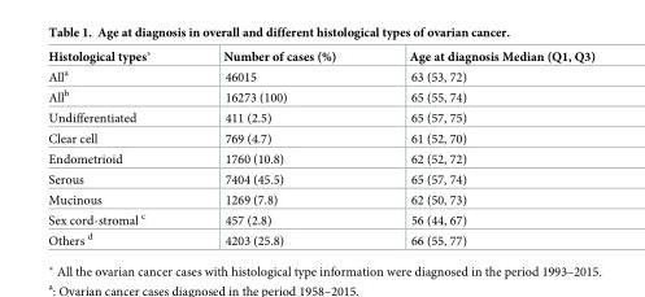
<table><thead><tr><td>Histological types*</td><td>Number of cases (%)</td><td>Age at diagnosis Median (Q1, Q3)</td></tr></thead><tbody><tr><td>All<sup>a</sup></td><td>46015</td><td>63 (53, 72)</td></tr><tr><td>All<sup>b</sup></td><td>16273 (100)</td><td>65 (55, 74)</td></tr><tr><td>Undifferentiated</td><td>411 (2.5)</td><td>65 (57, 75)</td></tr><tr><td>Clear cell</td><td>769 (4.7)</td><td>61 (52, 70)</td></tr><tr><td>Endometrioid</td><td>1760 (10.8)</td><td>62 (52, 72)</td></tr><tr><td>Serous</td><td>7404 (45.5)</td><td>65 (57, 74)</td></tr><tr><td>Mucinous</td><td>1269 (7.8)</td><td>62 (50, 73)</td></tr><tr><td>Sex cord-stromal <sup>c</sup></td><td>457 (2.8)</td><td>56 (44, 67)</td></tr><tr><td>Others <sup>d</sup></td><td>4203 (25.8)</td><td>66 (55, 77)</td></tr></tbody></table>